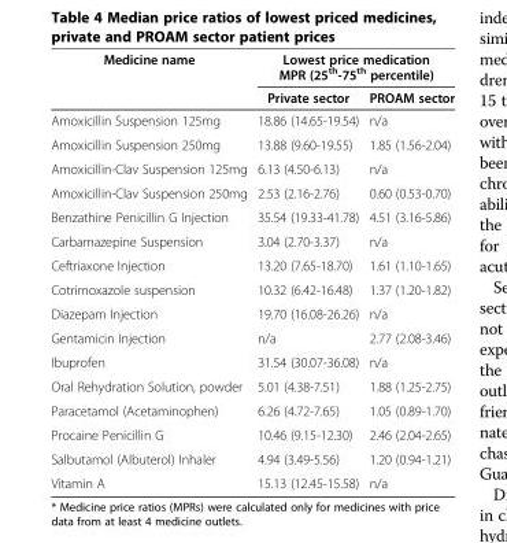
<table><thead><tr><td rowspan="2">Medicine name</td><td colspan="2">Lowest price medication MPR (25<sup>th</sup>-75<sup>th</sup> percentile)</td></tr><tr><td>Private sector</td><td>PROAM sector</td></tr></thead><tbody><tr><td>Amoxicillin Suspension 125mg</td><td>18.86 (14.65-19.54)</td><td>n/a</td></tr><tr><td>Amoxicillin Suspension 250mg</td><td>13.88 (9.60-19.55)</td><td>1.85 (1.56-2.04)</td></tr><tr><td>Amoxicillin-Clav Suspension 125mg</td><td>6.13 (4.50-6.13)</td><td>n/a</td></tr><tr><td>Amoxicillin-Clav Suspension 250mg</td><td>2.53 (2.16-2.76)</td><td>0.60 (0.53-0.70)</td></tr><tr><td>Benzathine Penicillin G Injection</td><td>35.54 (19.33-41.78)</td><td>4.51 (3.16-5.86)</td></tr><tr><td>Carbamazepine Suspension</td><td>3.04 (2.70-3.37)</td><td>n/a</td></tr><tr><td>Ceftriaxone Injection</td><td>13.20 (7.65-18.70)</td><td>1.61 (1.10-1.65)</td></tr><tr><td>Cotrimoxazole suspension</td><td>10.32 (6.42-16.48)</td><td>1.37 (1.20-1.82)</td></tr><tr><td>Diazepam Injection</td><td>19.70 (16.08-26.26)</td><td>n/a</td></tr><tr><td>Gentamicin Injection</td><td>n/a</td><td>2.77 (2.08-3.46)</td></tr><tr><td>Ibuprofen</td><td>31.54 (30.07-36.08)</td><td>n/a</td></tr><tr><td>Oral Rehydration Solution, powder</td><td>5.01 (4.38-7.51)</td><td>1.88 (1.25-2.75)</td></tr><tr><td>Paracetamol (Acetaminophen)</td><td>6.26 (4.72-7.65)</td><td>1.05 (0.89-1.70)</td></tr><tr><td>Procaine Penicillin G</td><td>10.46 (9.15-12.30)</td><td>2.46 (2.04-2.65)</td></tr><tr><td>Salbutamol (Albuterol) Inhaler</td><td>4.94 (3.49-5.56)</td><td>1.20 (0.94-1.21)</td></tr><tr><td>Vitamin A</td><td>15.13 (12.45-15.58)</td><td>n/a</td></tr></tbody></table>